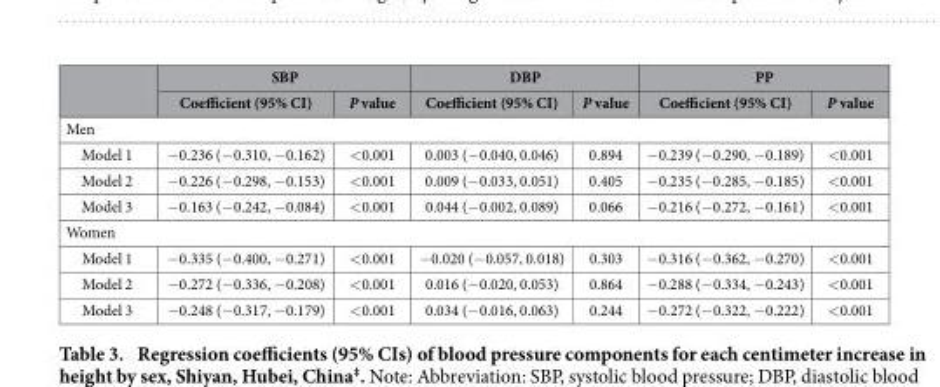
<table><thead><tr><td rowspan="2"></td><td colspan="2">SBP</td><td colspan="2">DBP</td><td colspan="2">PP</td></tr><tr><td>Coefficient (95% CI)</td><td>P value</td><td>Coefficient (95% CI)</td><td>P value</td><td>Coefficient (95% CI)</td><td>P value</td></tr></thead><tbody><tr><td colspan="7">Men</td></tr><tr><td>Model 1</td><td>− 0.236 (− 0.310, − 0.162)</td><td>&lt; 0.001</td><td>0.003 (− 0.040, 0.046)</td><td>0.894</td><td>− 0.239 (− 0.290, − 0.189)</td><td>&lt; 0.001</td></tr><tr><td>Model 2</td><td>− 0.226 (− 0.298, − 0.153)</td><td>&lt; 0.001</td><td>0.009 (− 0.033, 0.051)</td><td>0.405</td><td>− 0.235 (− 0.285, − 0.185)</td><td>&lt; 0.001</td></tr><tr><td>Model 3</td><td>− 0.163 (− 0.242, − 0.084)</td><td>&lt; 0.001</td><td>0.044 (− 0.002, 0.089)</td><td>0.066</td><td>− 0.216 (− 0.272, − 0.161)</td><td>&lt; 0.001</td></tr><tr><td colspan="7">Women</td></tr><tr><td>Model 1</td><td>− 0.335 (− 0.400, − 0.271)</td><td>&lt; 0.001</td><td>− 0.020 (− 0.057, 0.018)</td><td>0.303</td><td>− 0.316 (− 0.362, − 0.270)</td><td>&lt; 0.001</td></tr><tr><td>Model 2</td><td>− 0.272 (− 0.336, − 0.208)</td><td>&lt; 0.001</td><td>0.016 (− 0.020, 0.053)</td><td>0.864</td><td>− 0.288 (− 0.334, − 0.243)</td><td>&lt; 0.001</td></tr><tr><td>Model 3</td><td>− 0.248 (− 0.317, − 0.179)</td><td>&lt; 0.001</td><td>0.034 (− 0.016, 0.063)</td><td>0.244</td><td>− 0.272 (− 0.322, − 0.222)</td><td>&lt; 0.001</td></tr></tbody></table>